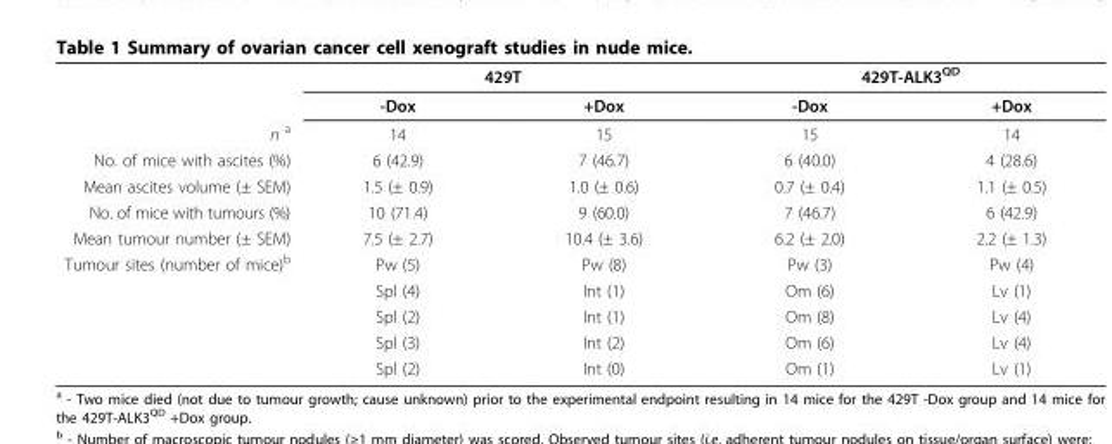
<table><thead><tr><td rowspan="2"></td><td colspan="2">429T</td><td colspan="2">429T-ALK3<sup>QD</sup></td></tr><tr><td>-Dox</td><td>+Dox</td><td>-Dox</td><td>+Dox</td></tr></thead><tbody><tr><td>n <sup>a</sup></td><td>14</td><td>15</td><td>15</td><td>14</td></tr><tr><td>No. of mice with ascites (%)</td><td>6 (42.9)</td><td>7 (46.7)</td><td>6 (40.0)</td><td>4 (28.6)</td></tr><tr><td>Mean ascites volume (± SEM)</td><td>1.5 (± 0.9)</td><td>1.0 (± 0.6)</td><td>0.7 (± 0.4)</td><td>1.1 (± 0.5)</td></tr><tr><td>No. of mice with tumours (%)</td><td>10 (71.4)</td><td>9 (60.0)</td><td>7 (46.7)</td><td>6 (42.9)</td></tr><tr><td>Mean tumour number (± SEM)</td><td>7.5 (± 2.7)</td><td>10.4 (± 3.6)</td><td>6.2 (± 2.0)</td><td>2.2 (± 1.3)</td></tr><tr><td rowspan="5">Tumour sites (number of mice)<sup>b</sup></td><td>Pw (5)</td><td>Pw (8)</td><td>Pw (3)</td><td>Pw (4)</td></tr><tr><td>Spl (4)</td><td>Int (1)</td><td>Om (6)</td><td>Lv (1)</td></tr><tr><td>Spl (2)</td><td>Int (1)</td><td>Om (8)</td><td>Lv (4)</td></tr><tr><td>Spl (3)</td><td>Int (2)</td><td>Om (6)</td><td>Lv (4)</td></tr><tr><td>Spl (2)</td><td>Int (0)</td><td>Om (1)</td><td>Lv (1)</td></tr></tbody></table>